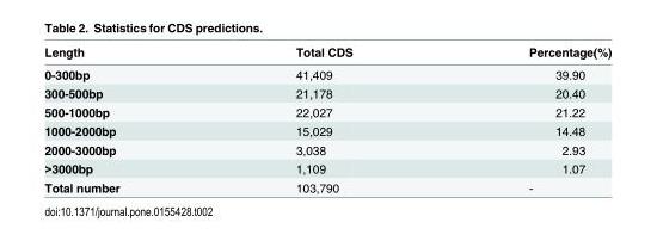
<table><thead><tr><td>Length</td><td>Total CDS</td><td>Percentage(%)</td></tr></thead><tbody><tr><td>0-300bp</td><td>41,409</td><td>39.90</td></tr><tr><td>300-500bp</td><td>21,178</td><td>20.40</td></tr><tr><td>500-1000bp</td><td>22,027</td><td>21.22</td></tr><tr><td>1000-2000bp</td><td>15,029</td><td>14.48</td></tr><tr><td>2000-3000bp</td><td>3,038</td><td>2.93</td></tr><tr><td>&gt;3000bp</td><td>1,109</td><td>1.07</td></tr><tr><td>Total number</td><td>103,790</td><td>-</td></tr></tbody></table>